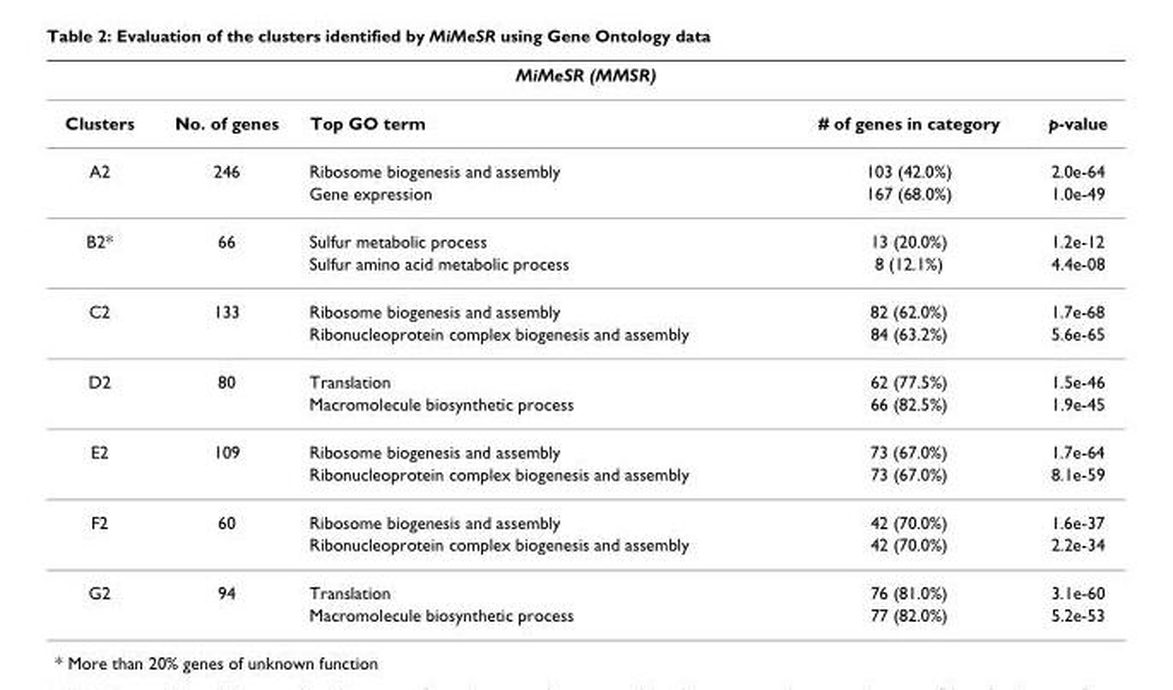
<table><thead><tr><td colspan="5">MiMeSR (MMSR)</td></tr><tr><td>Clusters</td><td>No. of genes</td><td>Top GO term</td><td># of genes in category</td><td>p-value</td></tr></thead><tbody><tr><td rowspan="2">A2</td><td>246</td><td>Ribosome biogenesis and assembly</td><td>103 (42.0%)</td><td>2.0e-64</td></tr><tr><td></td><td>Gene expression</td><td>167 (68.0%)</td><td>1.0e-49</td></tr><tr><td rowspan="2">B2*</td><td>66</td><td>Sulfur metabolic process</td><td>13 (20.0%)</td><td>1.2e-12</td></tr><tr><td></td><td>Sulfur amino acid metabolic process</td><td>8 (12.1%)</td><td>4.4e-08</td></tr><tr><td rowspan="2">C2</td><td>133</td><td>Ribosome biogenesis and assembly</td><td>82 (62.0%)</td><td>1.7e-68</td></tr><tr><td></td><td>Ribonucleoprotein complex biogenesis and assembly</td><td>84 (63.2%)</td><td>5.6e-65</td></tr><tr><td rowspan="2">D2</td><td>80</td><td>Translation</td><td>62 (77.5%)</td><td>1.5e-46</td></tr><tr><td></td><td>Macromolecule biosynthetic process</td><td>66 (82.5%)</td><td>1.9e-45</td></tr><tr><td rowspan="2">E2</td><td>109</td><td>Ribosome biogenesis and assembly</td><td>73 (67.0%)</td><td>1.7e-64</td></tr><tr><td></td><td>Ribonucleoprotein complex biogenesis and assembly</td><td>73 (67.0%)</td><td>8.1e-59</td></tr><tr><td rowspan="2">F2</td><td>60</td><td>Ribosome biogenesis and assembly</td><td>42 (70.0%)</td><td>1.6e-37</td></tr><tr><td></td><td>Ribonucleoprotein complex biogenesis and assembly</td><td>42 (70.0%)</td><td>2.2e-34</td></tr><tr><td rowspan="2">G2</td><td>94</td><td>Translation</td><td>76 (81.0%)</td><td>3.1e-60</td></tr><tr><td></td><td>Macromolecule biosynthetic process</td><td>77 (82.0%)</td><td>5.2e-53</td></tr></tbody></table>